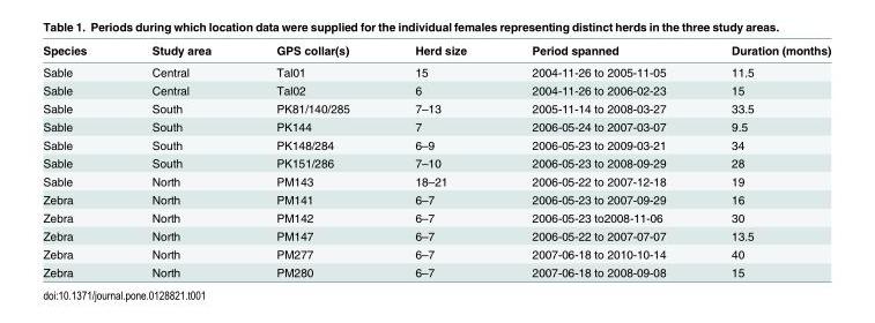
<table><thead><tr><td>Species</td><td>Study area</td><td>GPS collar(s)</td><td>Herd size</td><td>Period spanned</td><td>Duration (months)</td></tr></thead><tbody><tr><td>Sable</td><td>Central</td><td>Tal01</td><td>15</td><td>2004-11-26 to 2005-11-05</td><td>11.5</td></tr><tr><td>Sable</td><td>Central</td><td>Tal02</td><td>6</td><td>2004-11-26 to 2006-02-23</td><td>15</td></tr><tr><td>Sable</td><td>South</td><td>PK81/140/285</td><td>7–13</td><td>2005-11-14 to 2008-03-27</td><td>33.5</td></tr><tr><td>Sable</td><td>South</td><td>PK144</td><td>7</td><td>2006-05-24 to 2007-03-07</td><td>9.5</td></tr><tr><td>Sable</td><td>South</td><td>PK148/284</td><td>6–9</td><td>2006-05-23 to 2009-03-21</td><td>34</td></tr><tr><td>Sable</td><td>South</td><td>PK151/286</td><td>7–10</td><td>2006-05-23 to 2008-09-29</td><td>28</td></tr><tr><td>Sable</td><td>North</td><td>PM143</td><td>18–21</td><td>2006-05-22 to 2007-12-18</td><td>19</td></tr><tr><td>Zebra</td><td>North</td><td>PM141</td><td>6–7</td><td>2006-05-23 to 2007-09-29</td><td>16</td></tr><tr><td>Zebra</td><td>North</td><td>PM142</td><td>6–7</td><td>2006-05-23 to2008-11-06</td><td>30</td></tr><tr><td>Zebra</td><td>North</td><td>PM147</td><td>6–7</td><td>2006-05-22 to 2007-07-07</td><td>13.5</td></tr><tr><td>Zebra</td><td>North</td><td>PM277</td><td>6–7</td><td>2007-06-18 to 2010-10-14</td><td>40</td></tr><tr><td>Zebra</td><td>North</td><td>PM280</td><td>6–7</td><td>2007-06-18 to 2008-09-08</td><td>15</td></tr></tbody></table>